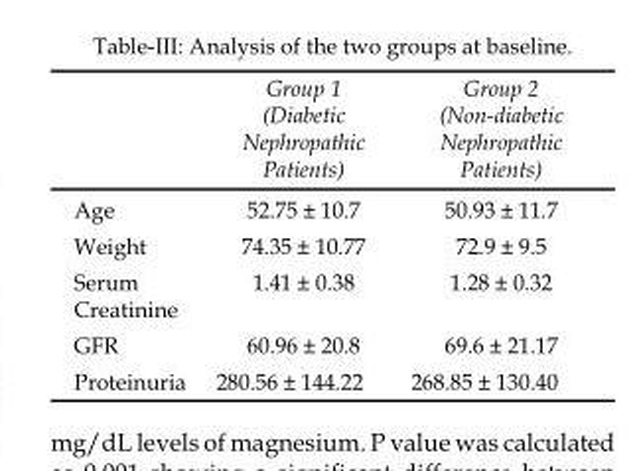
<table><thead><tr><td></td><td>Group 1 (Diabetic Nephropathic Patients)</td><td>Group 2 (Non-diabetic Nephropathic Patients)</td></tr></thead><tbody><tr><td>Age</td><td>52.75 ± 10.7</td><td>50.93 ± 11.7</td></tr><tr><td>Weight</td><td>74.35 ± 10.77</td><td>72.9 ± 9.5</td></tr><tr><td>Serum Creatinine</td><td>1.41 ± 0.38</td><td>1.28 ± 0.32</td></tr><tr><td>GFR</td><td>60.96 ± 20.8</td><td>69.6 ± 21.17</td></tr><tr><td>Proteinuria</td><td>280.56 ± 144.22</td><td>268.85 ± 130.40</td></tr></tbody></table>